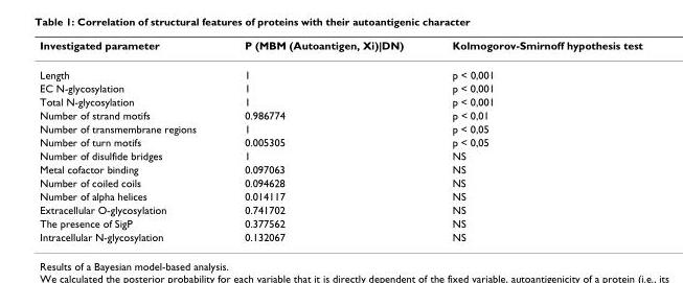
<table><thead><tr><td>Investigated parameter</td><td>P (MBM (Autoantigen, Xi)|DN)</td><td>Kolmogorov-Smirnoff hypothesis test</td></tr></thead><tbody><tr><td>Length</td><td>1</td><td>p &lt; 0,001</td></tr><tr><td>EC N-glycosylation</td><td>1</td><td>p &lt; 0,001</td></tr><tr><td>Total N-glycosylation</td><td>1</td><td>p &lt; 0,001</td></tr><tr><td>Number of strand motifs</td><td>0.986774</td><td>p &lt; 0,01</td></tr><tr><td>Number of transmembrane regions</td><td>1</td><td>p &lt; 0,05</td></tr><tr><td>Number of turn motifs</td><td>0.005305</td><td>p &lt; 0,05</td></tr><tr><td>Number of disulfide bridges</td><td>1</td><td>NS</td></tr><tr><td>Metal cofactor binding</td><td>0.097063</td><td>NS</td></tr><tr><td>Number of coiled coils</td><td>0.094628</td><td>NS</td></tr><tr><td>Number of alpha helices</td><td>0.014117</td><td>NS</td></tr><tr><td>Extracellular O-glycosylation</td><td>0.741702</td><td>NS</td></tr><tr><td>The presence of SigP</td><td>0.377562</td><td>NS</td></tr><tr><td>Intracellular N-glycosylation</td><td>0.132067</td><td>NS</td></tr></tbody></table>